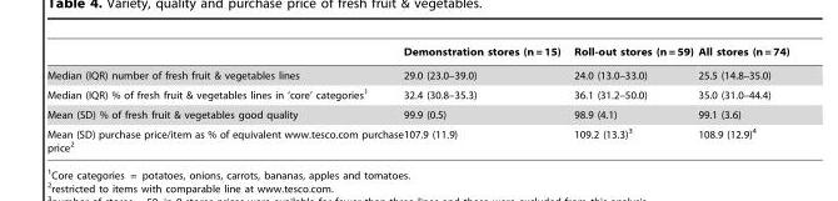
<table><thead><tr><td></td><td>Demonstration stores (n = 15)</td><td>Roll-out stores (n = 59)</td><td>All stores (n = 74)</td></tr></thead><tbody><tr><td>Median (IQR) number of fresh fruit &amp; vegetables lines</td><td>29.0 (23.0–39.0)</td><td>24.0 (13.0–33.0)</td><td>25.5 (14.8–35.0)</td></tr><tr><td>Median (IQR) % of fresh fruit &amp; vegetables lines in ‘core’ categories<sup>1</sup></td><td>32.4 (30.8–35.3)</td><td>36.1 (31.2–50.0)</td><td>35.0 (31.0–44.4)</td></tr><tr><td>Mean (SD) % of fresh fruit &amp; vegetables good quality</td><td>99.9 (0.5)</td><td>98.9 (4.1)</td><td>99.1 (3.6)</td></tr><tr><td>Mean (SD) purchase price/item as % of equivalent www.tesco.com purchase price<sup>2</sup></td><td>107.9 (11.9)</td><td>109.2 (13.3)<sup>3</sup></td><td>108.9 (12.9)<sup>4</sup></td></tr></tbody></table>